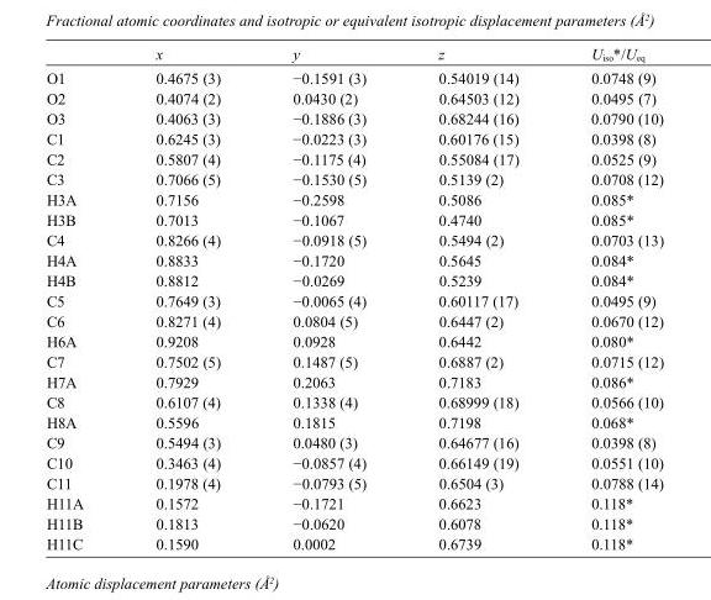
<table><thead><tr><td></td><td>x</td><td>y</td><td>z</td><td>U<sub>iso</sub>*/U<sub>eq</sub></td></tr></thead><tbody><tr><td>O1</td><td>0.4675 (3)</td><td>−0.1591 (3)</td><td>0.54019 (14)</td><td>0.0748 (9)</td></tr><tr><td>O2</td><td>0.4074 (2)</td><td>0.0430 (2)</td><td>0.64503 (12)</td><td>0.0495 (7)</td></tr><tr><td>O3</td><td>0.4063 (3)</td><td>−0.1886 (3)</td><td>0.68244 (16)</td><td>0.0790 (10)</td></tr><tr><td>C1</td><td>0.6245 (3)</td><td>−0.0223 (3)</td><td>0.60176 (15)</td><td>0.0398 (8)</td></tr><tr><td>C2</td><td>0.5807 (4)</td><td>−0.1175 (4)</td><td>0.55084 (17)</td><td>0.0525 (9)</td></tr><tr><td>C3</td><td>0.7066 (5)</td><td>−0.1530 (5)</td><td>0.5139 (2)</td><td>0.0708 (12)</td></tr><tr><td>H3A</td><td>0.7156</td><td>−0.2598</td><td>0.5086</td><td>0.085*</td></tr><tr><td>H3B</td><td>0.7013</td><td>−0.1067</td><td>0.4740</td><td>0.085*</td></tr><tr><td>C4</td><td>0.8266 (4)</td><td>−0.0918 (5)</td><td>0.5494 (2)</td><td>0.0703 (13)</td></tr><tr><td>H4A</td><td>0.8833</td><td>−0.1720</td><td>0.5645</td><td>0.084*</td></tr><tr><td>H4B</td><td>0.8812</td><td>−0.0269</td><td>0.5239</td><td>0.084*</td></tr><tr><td>C5</td><td>0.7649 (3)</td><td>−0.0065 (4)</td><td>0.60117 (17)</td><td>0.0495 (9)</td></tr><tr><td>C6</td><td>0.8271 (4)</td><td>0.0804 (5)</td><td>0.6447 (2)</td><td>0.0670 (12)</td></tr><tr><td>H6A</td><td>0.9208</td><td>0.0928</td><td>0.6442</td><td>0.080*</td></tr><tr><td>C7</td><td>0.7502 (5)</td><td>0.1487 (5)</td><td>0.6887 (2)</td><td>0.0715 (12)</td></tr><tr><td>H7A</td><td>0.7929</td><td>0.2063</td><td>0.7183</td><td>0.086*</td></tr><tr><td>C8</td><td>0.6107 (4)</td><td>0.1338 (4)</td><td>0.68999 (18)</td><td>0.0566 (10)</td></tr><tr><td>H8A</td><td>0.5596</td><td>0.1815</td><td>0.7198</td><td>0.068*</td></tr><tr><td>C9</td><td>0.5494 (3)</td><td>0.0480 (3)</td><td>0.64677 (16)</td><td>0.0398 (8)</td></tr><tr><td>C10</td><td>0.3463 (4)</td><td>−0.0857 (4)</td><td>0.66149 (19)</td><td>0.0551 (10)</td></tr><tr><td>C11</td><td>0.1978 (4)</td><td>−0.0793 (5)</td><td>0.6504 (3)</td><td>0.0788 (14)</td></tr><tr><td>H11A</td><td>0.1572</td><td>−0.1721</td><td>0.6623</td><td>0.118*</td></tr><tr><td>H11B</td><td>0.1813</td><td>−0.0620</td><td>0.6078</td><td>0.118*</td></tr><tr><td>H11C</td><td>0.1590</td><td>0.0002</td><td>0.6739</td><td>0.118*</td></tr></tbody></table>